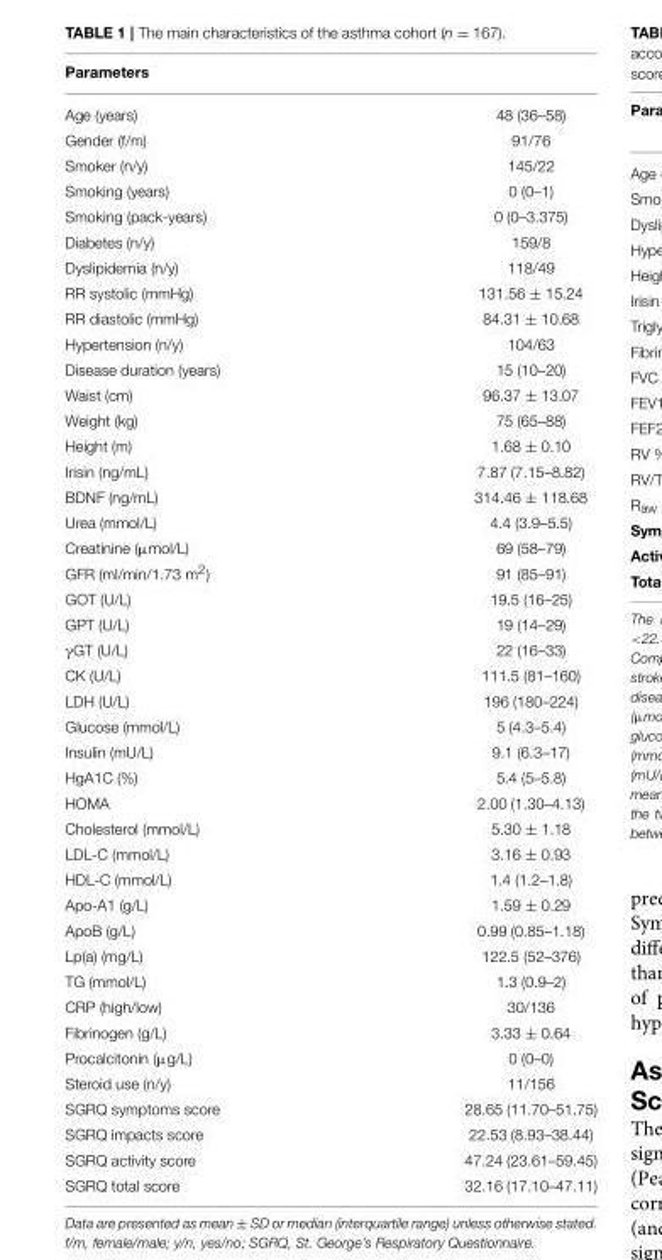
<table><thead><tr><td>Parameters</td><td></td></tr></thead><tbody><tr><td>Age (years)</td><td>48 (36–58)</td></tr><tr><td>Gender (f/m)</td><td>91/76</td></tr><tr><td>Smoker (n/y)</td><td>145/22</td></tr><tr><td>Smoking (years)</td><td>0 (0–1)</td></tr><tr><td>Smoking (pack-years)</td><td>0 (0–3.375)</td></tr><tr><td>Diabetes (n/y)</td><td>159/8</td></tr><tr><td>Dyslipidemia (n/y)</td><td>118/49</td></tr><tr><td>RR systolic (mmHg)</td><td>131.56 ± 15.24</td></tr><tr><td>RR diastolic (mmHg)</td><td>84.31 ± 10.68</td></tr><tr><td>Hypertension (n/y)</td><td>104/63</td></tr><tr><td>Disease duration (years)</td><td>15 (10–20)</td></tr><tr><td>Waist (cm)</td><td>96.37 ± 13.07</td></tr><tr><td>Weight (kg)</td><td>75 (65–88)</td></tr><tr><td>Height (m)</td><td>1.68 ± 0.10</td></tr><tr><td>Irisin (ng/mL)</td><td>7.87 (7.15–8.82)</td></tr><tr><td>BDNF (ng/mL)</td><td>314.46 ± 118.68</td></tr><tr><td>Urea (mmol/L)</td><td>4.4 (3.9–5.5)</td></tr><tr><td>Creatinine (µmol/L)</td><td>69 (58–79)</td></tr><tr><td>GFR (ml/min/1.73 m<sup>2</sup>)</td><td>91 (85–91)</td></tr><tr><td>GOT (U/L)</td><td>19.5 (16–25)</td></tr><tr><td>GPT (U/L)</td><td>19 (14–29)</td></tr><tr><td>γGT (U/L)</td><td>22 (16–33)</td></tr><tr><td>CK (U/L)</td><td>111.5 (81–160)</td></tr><tr><td>LDH (U/L)</td><td>196 (180–224)</td></tr><tr><td>Glucose (mmol/L)</td><td>5 (4.3–5.4)</td></tr><tr><td>Insulin (mU/L)</td><td>9.1 (6.3–17)</td></tr><tr><td>HgA1C (%)</td><td>5.4 (5–5.8)</td></tr><tr><td>HOMA</td><td>2.00 (1.30–4.13)</td></tr><tr><td>Cholesterol (mmol/L)</td><td>5.30 ± 1.18</td></tr><tr><td>LDL-C (mmol/L)</td><td>3.16 ± 0.93</td></tr><tr><td>HDL-C (mmol/L)</td><td>1.4 (1.2–1.8)</td></tr><tr><td>Apo-A1 (g/L)</td><td>1.59 ± 0.29</td></tr><tr><td>ApoB (g/L)</td><td>0.99 (0.85–1.18)</td></tr><tr><td>Lp(a) (mg/L)</td><td>122.5 (52–376)</td></tr><tr><td>TG (mmol/L)</td><td>1.3 (0.9–2)</td></tr><tr><td>CRP (high/low)</td><td>30/136</td></tr><tr><td>Fibrinogen (g/L)</td><td>3.33 ± 0.64</td></tr><tr><td>Procalcitonin (µg/L)</td><td>0 (0–0)</td></tr><tr><td>Steroid use (n/y)</td><td>11/156</td></tr><tr><td>SGRQ symptoms score</td><td>28.65 (11.70–51.75)</td></tr><tr><td>SGRQ impacts score</td><td>22.53 (8.93–38.44)</td></tr><tr><td>SGRQ activity score</td><td>47.24 (23.61–59.45)</td></tr><tr><td>SGRQ total score</td><td>32.16 (17.10–47.11)</td></tr></tbody></table>